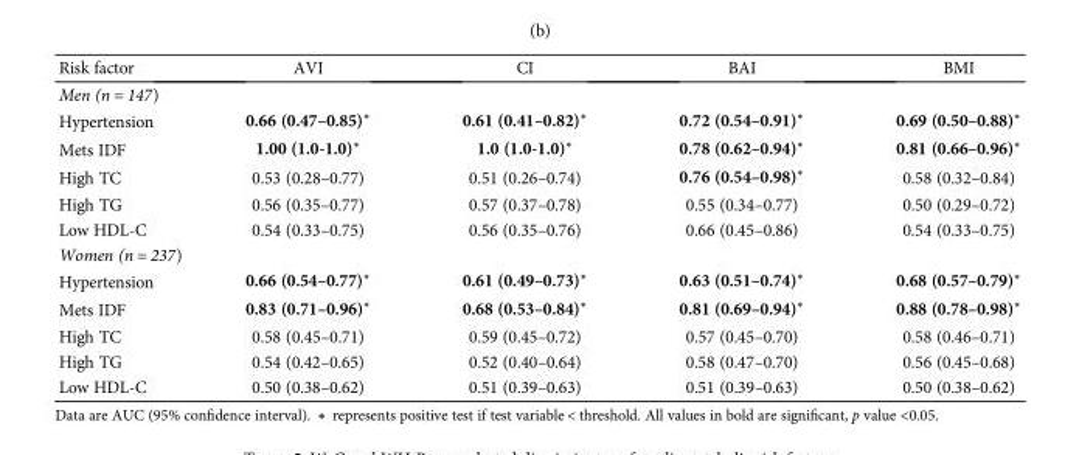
<table><thead><tr><td>Risk factor</td><td>AVI</td><td>CI</td><td>BAI</td><td>BMI</td></tr></thead><tbody><tr><td colspan="5">Men (n = 147)</td></tr><tr><td>Hypertension</td><td>0.66 (0.47–0.85)∗</td><td>0.61 (0.41–0.82)∗</td><td>0.72 (0.54–0.91)∗</td><td>0.69 (0.50–0.88)∗</td></tr><tr><td>Mets IDF</td><td>1.00 (1.0-1.0)∗</td><td>1.0 (1.0-1.0)∗</td><td>0.78 (0.62–0.94)∗</td><td>0.81 (0.66–0.96)∗</td></tr><tr><td>High TC</td><td>0.53 (0.28–0.77)</td><td>0.51 (0.26–0.74)</td><td>0.76 (0.54–0.98)∗</td><td>0.58 (0.32–0.84)</td></tr><tr><td>High TG</td><td>0.56 (0.35–0.77)</td><td>0.57 (0.37–0.78)</td><td>0.55 (0.34–0.77)</td><td>0.50 (0.29–0.72)</td></tr><tr><td>Low HDL-C</td><td>0.54 (0.33–0.75)</td><td>0.56 (0.35–0.76)</td><td>0.66 (0.45–0.86)</td><td>0.54 (0.33–0.75)</td></tr><tr><td colspan="5">Women (n = 237)</td></tr><tr><td>Hypertension</td><td>0.66 (0.54–0.77)∗</td><td>0.61 (0.49–0.73)∗</td><td>0.63 (0.51–0.74)∗</td><td>0.68 (0.57–0.79)∗</td></tr><tr><td>Mets IDF</td><td>0.83 (0.71–0.96)∗</td><td>0.68 (0.53–0.84)∗</td><td>0.81 (0.69–0.94)∗</td><td>0.88 (0.78–0.98)∗</td></tr><tr><td>High TC</td><td>0.58 (0.45–0.71)</td><td>0.59 (0.45–0.72)</td><td>0.57 (0.45–0.70)</td><td>0.58 (0.46–0.71)</td></tr><tr><td>High TG</td><td>0.54 (0.42–0.65)</td><td>0.52 (0.40–0.64)</td><td>0.58 (0.47–0.70)</td><td>0.56 (0.45–0.68)</td></tr><tr><td>Low HDL-C</td><td>0.50 (0.38–0.62)</td><td>0.51 (0.39–0.63)</td><td>0.51 (0.39–0.63)</td><td>0.50 (0.38–0.62)</td></tr></tbody></table>